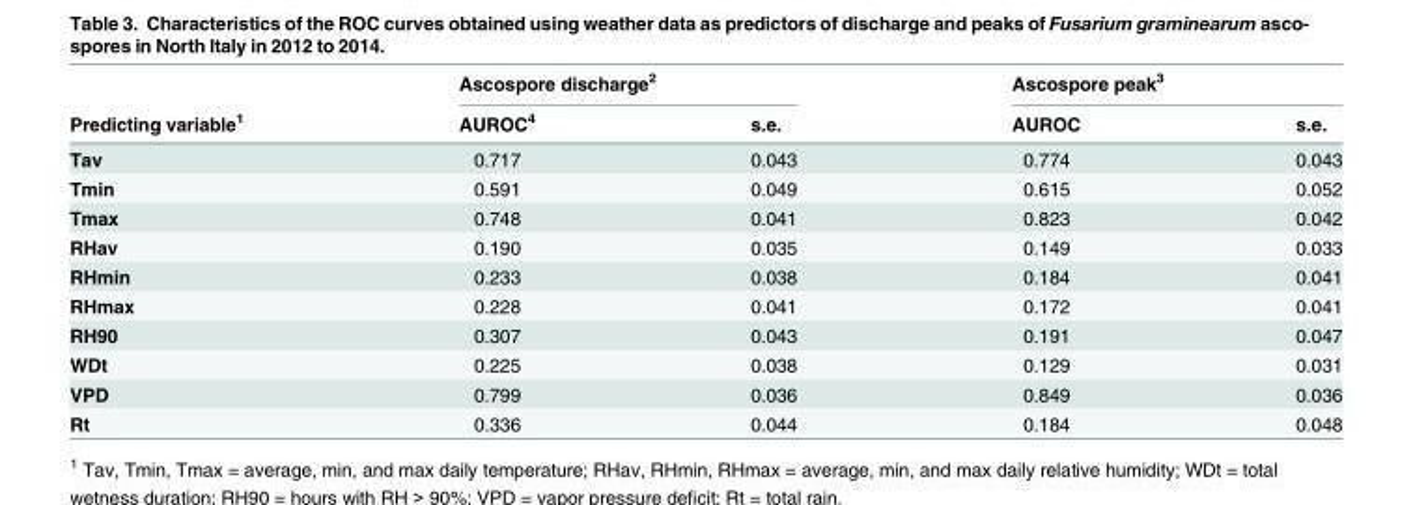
<table><thead><tr><td rowspan="2">Predicting variable<sup>1</sup></td><td colspan="2">Ascospore discharge<sup>2</sup></td><td colspan="2">Ascospore peak<sup>3</sup></td></tr><tr><td>AUROC<sup>4</sup></td><td>s.e.</td><td>AUROC</td><td>s.e.</td></tr></thead><tbody><tr><td>Tav</td><td>0.717</td><td>0.043</td><td>0.774</td><td>0.043</td></tr><tr><td>Tmin</td><td>0.591</td><td>0.049</td><td>0.615</td><td>0.052</td></tr><tr><td>Tmax</td><td>0.748</td><td>0.041</td><td>0.823</td><td>0.042</td></tr><tr><td>RHav</td><td>0.190</td><td>0.035</td><td>0.149</td><td>0.033</td></tr><tr><td>RHmin</td><td>0.233</td><td>0.038</td><td>0.184</td><td>0.041</td></tr><tr><td>RHmax</td><td>0.228</td><td>0.041</td><td>0.172</td><td>0.041</td></tr><tr><td>RH90</td><td>0.307</td><td>0.043</td><td>0.191</td><td>0.047</td></tr><tr><td>WDt</td><td>0.225</td><td>0.038</td><td>0.129</td><td>0.031</td></tr><tr><td>VPD</td><td>0.799</td><td>0.036</td><td>0.849</td><td>0.036</td></tr><tr><td>Rt</td><td>0.336</td><td>0.044</td><td>0.184</td><td>0.048</td></tr></tbody></table>